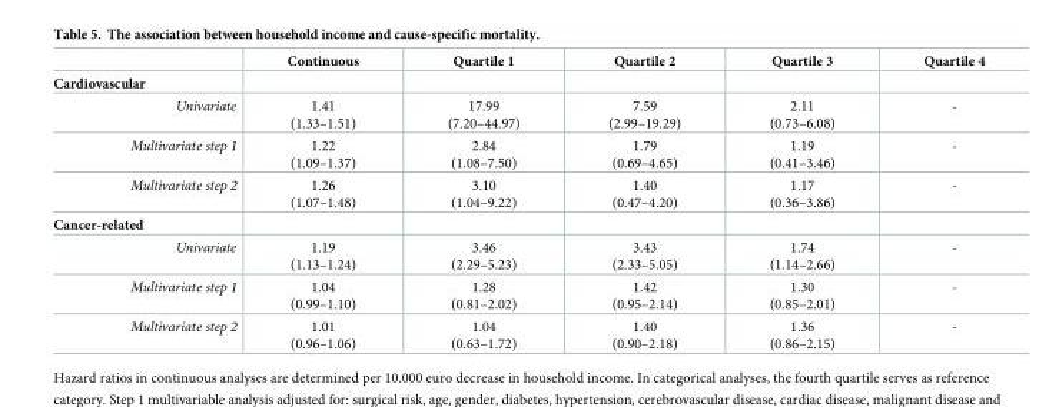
<table><thead><tr><td></td><td>Continuous</td><td>Quartile 1</td><td>Quartile 2</td><td>Quartile 3</td><td>Quartile 4</td></tr></thead><tbody><tr><td colspan="6">Cardiovascular</td></tr><tr><td>Univariate</td><td>1.41 (1.33–1.51)</td><td>17.99 (7.20–44.97)</td><td>7.59 (2.99–19.29)</td><td>2.11 (0.73–6.08)</td><td>-</td></tr><tr><td>Multivariate step 1</td><td>1.22 (1.09–1.37)</td><td>2.84 (1.08–7.50)</td><td>1.79 (0.69–4.65)</td><td>1.19 (0.41–3.46)</td><td>-</td></tr><tr><td>Multivariate step 2</td><td>1.26 (1.07–1.48)</td><td>3.10 (1.04–9.22)</td><td>1.40 (0.47–4.20)</td><td>1.17 (0.36–3.86)</td><td>-</td></tr><tr><td colspan="6">Cancer-related</td></tr><tr><td>Univariate</td><td>1.19 (1.13–1.24)</td><td>3.46 (2.29–5.23)</td><td>3.43 (2.33–5.05)</td><td>1.74 (1.14–2.66)</td><td>-</td></tr><tr><td>Multivariate step 1</td><td>1.04 (0.99–1.10)</td><td>1.28 (0.81–2.02)</td><td>1.42 (0.95–2.14)</td><td>1.30 (0.85–2.01)</td><td>-</td></tr><tr><td>Multivariate step 2</td><td>1.01 (0.96–1.06)</td><td>1.04 (0.63–1.72)</td><td>1.40 (0.90–2.18)</td><td>1.36 (0.86–2.15)</td><td>-</td></tr></tbody></table>